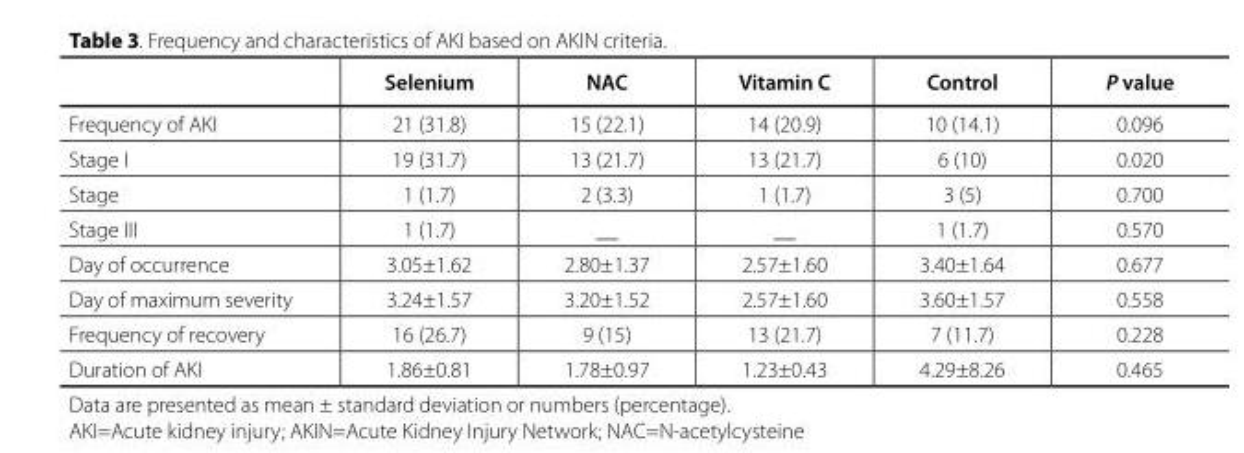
<table><thead><tr><td></td><td>Selenium</td><td>NAC</td><td>Vitamin C</td><td>Control</td><td>P value</td></tr></thead><tbody><tr><td>Frequency of AKI</td><td>21 (31.8)</td><td>15 (22.1)</td><td>14 (20.9)</td><td>10 (14.1)</td><td>0.096</td></tr><tr><td>Stage I</td><td>19 (31.7)</td><td>13 (21.7)</td><td>13 (21.7)</td><td>6 (10)</td><td>0.020</td></tr><tr><td>Stage</td><td>1 (1.7)</td><td>2 (3.3)</td><td>1 (1.7)</td><td>3 (5)</td><td>0.700</td></tr><tr><td>Stage III</td><td>1 (1.7)</td><td>__</td><td>__</td><td>1 (1.7)</td><td>0.570</td></tr><tr><td>Day of occurrence</td><td>3.05±1.62</td><td>2.80±1.37</td><td>2.57±1.60</td><td>3.40±1.64</td><td>0.677</td></tr><tr><td>Day of maximum severity</td><td>3.24±1.57</td><td>3.20±1.52</td><td>2.57±1.60</td><td>3.60±1.57</td><td>0.558</td></tr><tr><td>Frequency of recovery</td><td>16 (26.7)</td><td>9 (15)</td><td>13 (21.7)</td><td>7 (11.7)</td><td>0.228</td></tr><tr><td>Duration of AKI</td><td>1.86±0.81</td><td>1.78±0.97</td><td>1.23±0.43</td><td>4.29±8.26</td><td>0.465</td></tr></tbody></table>